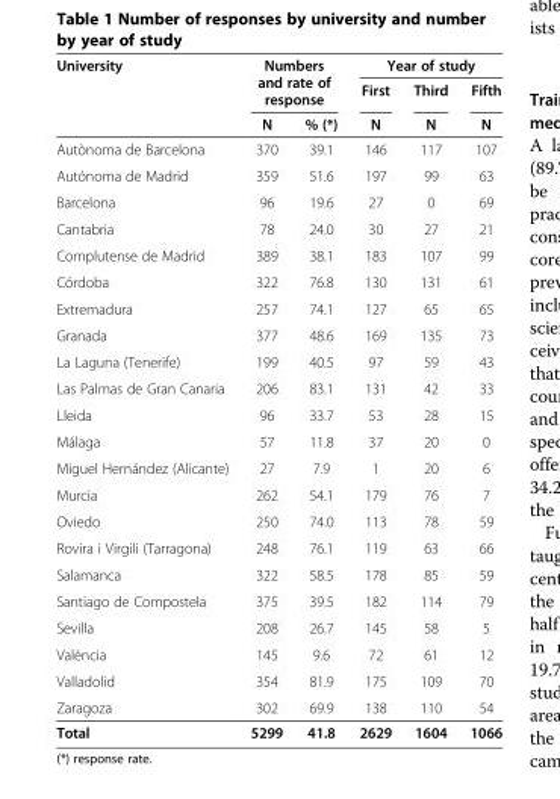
<table><thead><tr><td rowspan="3">University</td><td rowspan="2" colspan="2">Numbers and rate of response</td><td colspan="3">Year of study</td></tr><tr><td rowspan="2">First N</td><td rowspan="2">Third N</td><td rowspan="2">Fifth N</td></tr><tr><td>N</td><td>% (*)</td></tr></thead><tbody><tr><td>Autònoma de Barcelona</td><td>370</td><td>39.1</td><td>146</td><td>117</td><td>107</td></tr><tr><td>Autónoma de Madrid</td><td>359</td><td>51.6</td><td>197</td><td>99</td><td>63</td></tr><tr><td>Barcelona</td><td>96</td><td>19.6</td><td>27</td><td>0</td><td>69</td></tr><tr><td>Cantabria</td><td>78</td><td>24.0</td><td>30</td><td>27</td><td>21</td></tr><tr><td>Complutense de Madrid</td><td>389</td><td>38.1</td><td>183</td><td>107</td><td>99</td></tr><tr><td>Córdoba</td><td>322</td><td>76.8</td><td>130</td><td>131</td><td>61</td></tr><tr><td>Extremadura</td><td>257</td><td>74.1</td><td>127</td><td>65</td><td>65</td></tr><tr><td>Granada</td><td>377</td><td>48.6</td><td>169</td><td>135</td><td>73</td></tr><tr><td>La Laguna (Tenerife)</td><td>199</td><td>40.5</td><td>97</td><td>59</td><td>43</td></tr><tr><td>Las Palmas de Gran Canaria</td><td>206</td><td>83.1</td><td>131</td><td>42</td><td>33</td></tr><tr><td>Lleida</td><td>96</td><td>33.7</td><td>53</td><td>28</td><td>15</td></tr><tr><td>Málaga</td><td>57</td><td>11.8</td><td>37</td><td>20</td><td>0</td></tr><tr><td>Miguel Hernández (Alicante)</td><td>27</td><td>7.9</td><td>1</td><td>20</td><td>6</td></tr><tr><td>Murcia</td><td>262</td><td>54.1</td><td>179</td><td>76</td><td>7</td></tr><tr><td>Oviedo</td><td>250</td><td>74.0</td><td>113</td><td>78</td><td>59</td></tr><tr><td>Rovira i Virgili (Tarragona)</td><td>248</td><td>76.1</td><td>119</td><td>63</td><td>66</td></tr><tr><td>Salamanca</td><td>322</td><td>58.5</td><td>178</td><td>85</td><td>59</td></tr><tr><td>Santiago de Compostela</td><td>375</td><td>39.5</td><td>182</td><td>114</td><td>79</td></tr><tr><td>Sevilla</td><td>208</td><td>26.7</td><td>145</td><td>58</td><td>5</td></tr><tr><td>València</td><td>145</td><td>9.6</td><td>72</td><td>61</td><td>12</td></tr><tr><td>Valladolid</td><td>354</td><td>81.9</td><td>175</td><td>109</td><td>70</td></tr><tr><td>Zaragoza</td><td>302</td><td>69.9</td><td>138</td><td>110</td><td>54</td></tr><tr><td>Total</td><td>5299</td><td>41.8</td><td>2629</td><td>1604</td><td>1066</td></tr></tbody></table>